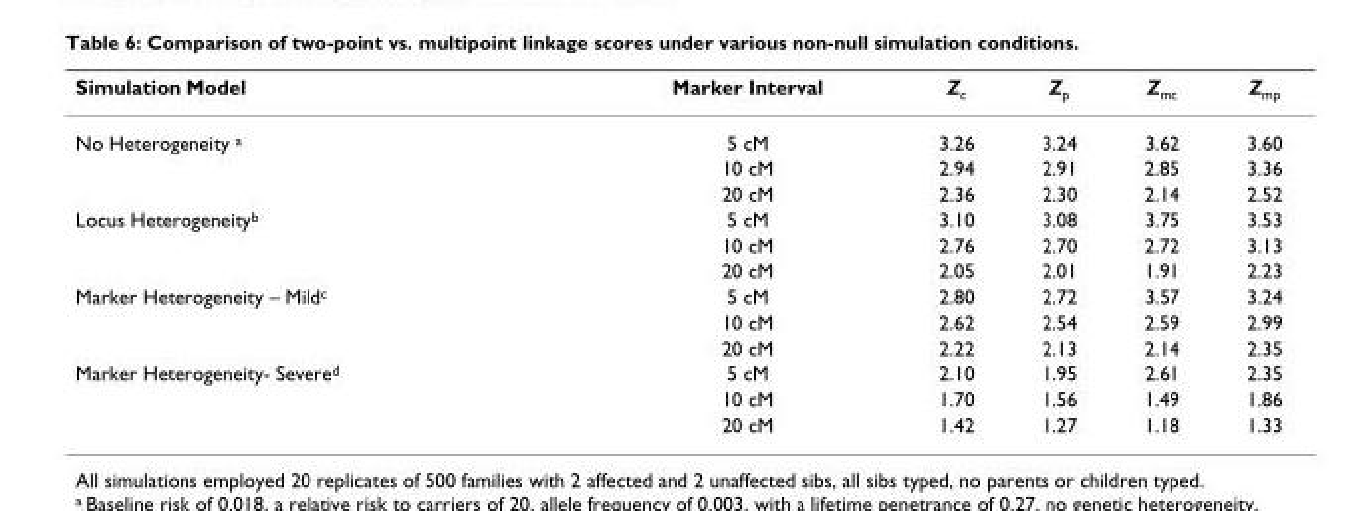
<table><thead><tr><td>Simulation Model</td><td>Marker Interval</td><td>Z<sub>c</sub></td><td>Z<sub>p</sub></td><td>Z<sub>mc</sub></td><td>Z<sub>mp</sub></td></tr></thead><tbody><tr><td rowspan="3">No Heterogeneity <sup>a</sup></td><td>5 cM</td><td>3.26</td><td>3.24</td><td>3.62</td><td>3.60</td></tr><tr><td>10 cM</td><td>2.94</td><td>2.91</td><td>2.85</td><td>3.36</td></tr><tr><td>20 cM</td><td>2.36</td><td>2.30</td><td>2.14</td><td>2.52</td></tr><tr><td rowspan="3">Locus Heterogeneity<sup>b</sup></td><td>5 cM</td><td>3.10</td><td>3.08</td><td>3.75</td><td>3.53</td></tr><tr><td>10 cM</td><td>2.76</td><td>2.70</td><td>2.72</td><td>3.13</td></tr><tr><td>20 cM</td><td>2.05</td><td>2.01</td><td>1.91</td><td>2.23</td></tr><tr><td rowspan="3">Marker Heterogeneity – Mild<sup>c</sup></td><td>5 cM</td><td>2.80</td><td>2.72</td><td>3.57</td><td>3.24</td></tr><tr><td>10 cM</td><td>2.62</td><td>2.54</td><td>2.59</td><td>2.99</td></tr><tr><td>20 cM</td><td>2.22</td><td>2.13</td><td>2.14</td><td>2.35</td></tr><tr><td rowspan="3">Marker Heterogeneity- Severe<sup>d</sup></td><td>5 cM</td><td>2.10</td><td>1.95</td><td>2.61</td><td>2.35</td></tr><tr><td>10 cM</td><td>1.70</td><td>1.56</td><td>1.49</td><td>1.86</td></tr><tr><td>20 cM</td><td>1.42</td><td>1.27</td><td>1.18</td><td>1.33</td></tr></tbody></table>